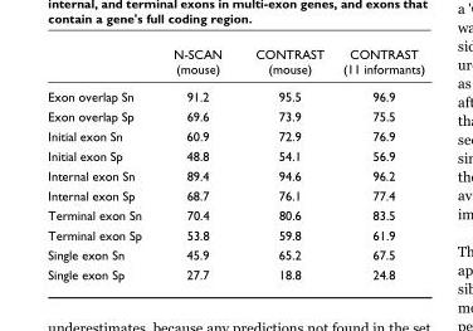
<table><thead><tr><td></td><td>N-SCAN (mouse)</td><td>CONTRAST (mouse)</td><td>CONTRAST (11 informants)</td></tr></thead><tbody><tr><td>Exon overlap Sn</td><td>91.2</td><td>95.5</td><td>96.9</td></tr><tr><td>Exon overlap Sp</td><td>69.6</td><td>73.9</td><td>75.5</td></tr><tr><td>Initial exon Sn</td><td>60.9</td><td>72.9</td><td>76.9</td></tr><tr><td>Initial exon Sp</td><td>48.8</td><td>54.1</td><td>56.9</td></tr><tr><td>Internal exon Sn</td><td>89.4</td><td>94.6</td><td>96.2</td></tr><tr><td>Internal exon Sp</td><td>68.7</td><td>76.1</td><td>77.4</td></tr><tr><td>Terminal exon Sn</td><td>70.4</td><td>80.6</td><td>83.5</td></tr><tr><td>Terminal exon Sp</td><td>53.8</td><td>59.8</td><td>61.9</td></tr><tr><td>Single exon Sn</td><td>45.9</td><td>65.2</td><td>67.5</td></tr><tr><td>Single exon Sp</td><td>27.7</td><td>18.8</td><td>24.8</td></tr></tbody></table>